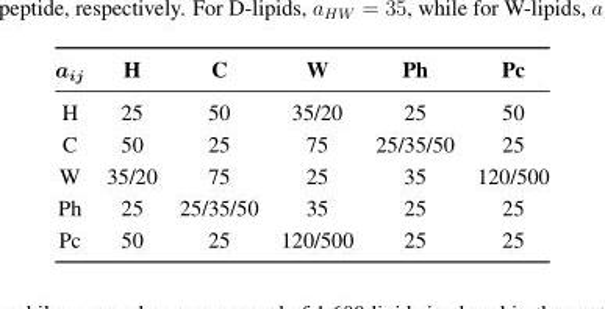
<table><thead><tr><td>a<sub>ij</sub></td><td>H</td><td>C</td><td>W</td><td>Ph</td><td>Pc</td></tr></thead><tbody><tr><td>H</td><td>25</td><td>50</td><td>35/20</td><td>25</td><td>50</td></tr><tr><td>C</td><td>50</td><td>25</td><td>75</td><td>25/35/50</td><td>25</td></tr><tr><td>W</td><td>35/20</td><td>75</td><td>25</td><td>35</td><td>120/500</td></tr><tr><td>Ph</td><td>25</td><td>25/35/50</td><td>35</td><td>25</td><td>25</td></tr><tr><td>Pc</td><td>50</td><td>25</td><td>120/500</td><td>25</td><td>25</td></tr></tbody></table>